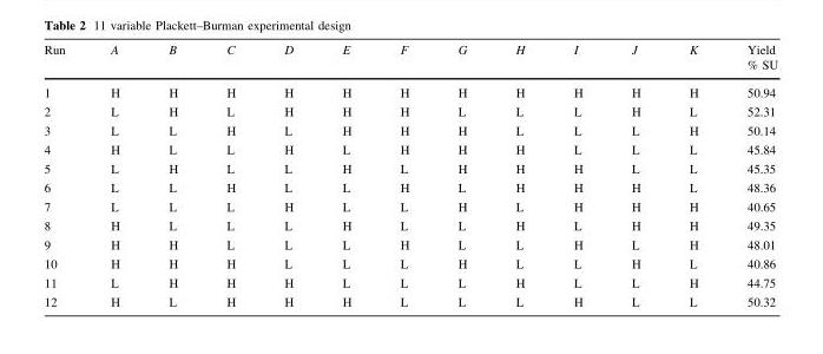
<table><thead><tr><td>Run</td><td>A</td><td>B</td><td>C</td><td>D</td><td>E</td><td>F</td><td>G</td><td>H</td><td>I</td><td>J</td><td>K</td><td>Yield % SU</td></tr></thead><tbody><tr><td>1</td><td>H</td><td>H</td><td>H</td><td>H</td><td>H</td><td>H</td><td>H</td><td>H</td><td>H</td><td>H</td><td>H</td><td>50.94</td></tr><tr><td>2</td><td>L</td><td>H</td><td>L</td><td>H</td><td>H</td><td>H</td><td>L</td><td>L</td><td>L</td><td>H</td><td>L</td><td>52.31</td></tr><tr><td>3</td><td>L</td><td>L</td><td>H</td><td>L</td><td>H</td><td>H</td><td>H</td><td>L</td><td>L</td><td>L</td><td>H</td><td>50.14</td></tr><tr><td>4</td><td>H</td><td>L</td><td>L</td><td>H</td><td>L</td><td>H</td><td>H</td><td>H</td><td>L</td><td>L</td><td>L</td><td>45.84</td></tr><tr><td>5</td><td>L</td><td>H</td><td>L</td><td>L</td><td>H</td><td>L</td><td>H</td><td>H</td><td>H</td><td>L</td><td>L</td><td>45.35</td></tr><tr><td>6</td><td>L</td><td>L</td><td>H</td><td>L</td><td>L</td><td>H</td><td>L</td><td>H</td><td>H</td><td>H</td><td>L</td><td>48.36</td></tr><tr><td>7</td><td>L</td><td>L</td><td>L</td><td>H</td><td>L</td><td>L</td><td>H</td><td>L</td><td>H</td><td>H</td><td>H</td><td>40.65</td></tr><tr><td>8</td><td>H</td><td>L</td><td>L</td><td>L</td><td>H</td><td>L</td><td>L</td><td>H</td><td>L</td><td>H</td><td>H</td><td>49.35</td></tr><tr><td>9</td><td>H</td><td>H</td><td>L</td><td>L</td><td>L</td><td>H</td><td>L</td><td>L</td><td>H</td><td>L</td><td>H</td><td>48.01</td></tr><tr><td>10</td><td>H</td><td>H</td><td>H</td><td>L</td><td>L</td><td>L</td><td>H</td><td>L</td><td>L</td><td>H</td><td>L</td><td>40.86</td></tr><tr><td>11</td><td>L</td><td>H</td><td>H</td><td>H</td><td>L</td><td>L</td><td>L</td><td>H</td><td>L</td><td>L</td><td>H</td><td>44.75</td></tr><tr><td>12</td><td>H</td><td>L</td><td>H</td><td>H</td><td>H</td><td>L</td><td>L</td><td>L</td><td>H</td><td>L</td><td>L</td><td>50.32</td></tr></tbody></table>